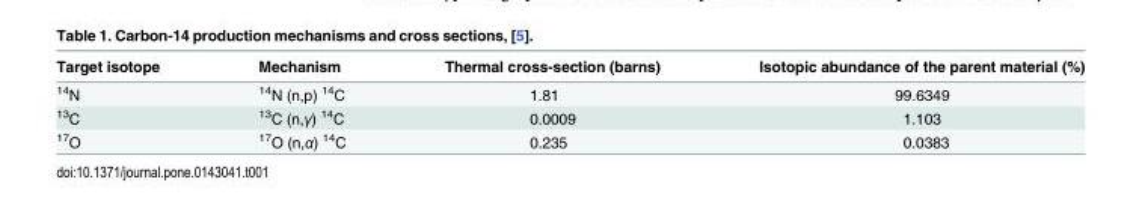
<table><thead><tr><td>Target isotope</td><td>Mechanism</td><td>Thermal cross-section (barns)</td><td>Isotopic abundance of the parent material (%)</td></tr></thead><tbody><tr><td><sup>14</sup>N</td><td><sup>14</sup>N (n,p) <sup>14</sup>C</td><td>1.81</td><td>99.6349</td></tr><tr><td><sup>13</sup>C</td><td><sup>13</sup>C (n,γ) <sup>14</sup>C</td><td>0.0009</td><td>1.103</td></tr><tr><td><sup>17</sup>O</td><td><sup>17</sup>O (n,α) <sup>14</sup>C</td><td>0.235</td><td>0.0383</td></tr></tbody></table>